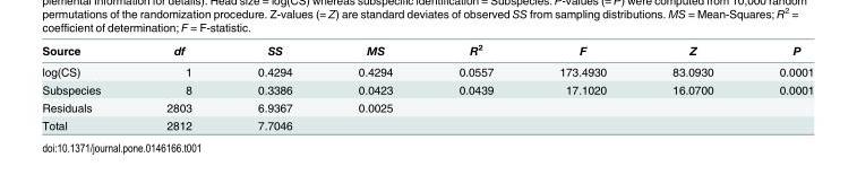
<table><thead><tr><td>Source</td><td>df</td><td>SS</td><td>MS</td><td>R<sup>2</sup></td><td>F</td><td>Z</td><td>P</td></tr></thead><tbody><tr><td>log(CS)</td><td>1</td><td>0.4294</td><td>0.4294</td><td>0.0557</td><td>173.4930</td><td>83.0930</td><td>0.0001</td></tr><tr><td>Subspecies</td><td>8</td><td>0.3386</td><td>0.0423</td><td>0.0439</td><td>17.1020</td><td>16.0700</td><td>0.0001</td></tr><tr><td>Residuals</td><td>2803</td><td>6.9367</td><td>0.0025</td><td></td><td></td><td></td><td></td></tr><tr><td>Total</td><td>2812</td><td>7.7046</td><td></td><td></td><td></td><td></td><td></td></tr></tbody></table>